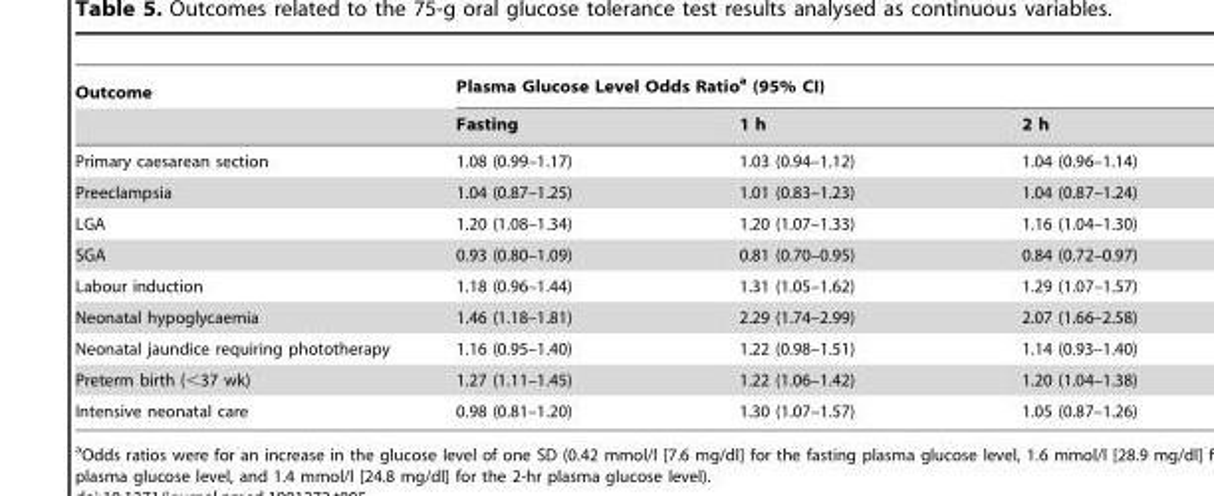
<table><thead><tr><td rowspan="2">Outcome</td><td colspan="3">Plasma Glucose Level Odds Ratio<sup>a</sup> (95% CI)</td></tr><tr><td>Fasting</td><td>1 h</td><td>2 h</td></tr></thead><tbody><tr><td>Primary caesarean section</td><td>1.08 (0.99–1.17)</td><td>1.03 (0.94–1.12)</td><td>1.04 (0.96–1.14)</td></tr><tr><td>Preeclampsia</td><td>1.04 (0.87–1.25)</td><td>1.01 (0.83–1.23)</td><td>1.04 (0.87–1.24)</td></tr><tr><td>LGA</td><td>1.20 (1.08–1.34)</td><td>1.20 (1.07–1.33)</td><td>1.16 (1.04–1.30)</td></tr><tr><td>SGA</td><td>0.93 (0.80–1.09)</td><td>0.81 (0.70–0.95)</td><td>0.84 (0.72–0.97)</td></tr><tr><td>Labour induction</td><td>1.18 (0.96–1.44)</td><td>1.31 (1.05–1.62)</td><td>1.29 (1.07–1.57)</td></tr><tr><td>Neonatal hypoglycaemia</td><td>1.46 (1.18–1.81)</td><td>2.29 (1.74–2.99)</td><td>2.07 (1.66–2.58)</td></tr><tr><td>Neonatal jaundice requiring phototherapy</td><td>1.16 (0.95–1.40)</td><td>1.22 (0.98–1.51)</td><td>1.14 (0.93–1.40)</td></tr><tr><td>Preterm birth (&lt;37 wk)</td><td>1.27 (1.11–1.45)</td><td>1.22 (1.06–1.42)</td><td>1.20 (1.04–1.38)</td></tr><tr><td>Intensive neonatal care</td><td>0.98 (0.81–1.20)</td><td>1.30 (1.07–1.57)</td><td>1.05 (0.87–1.26)</td></tr></tbody></table>